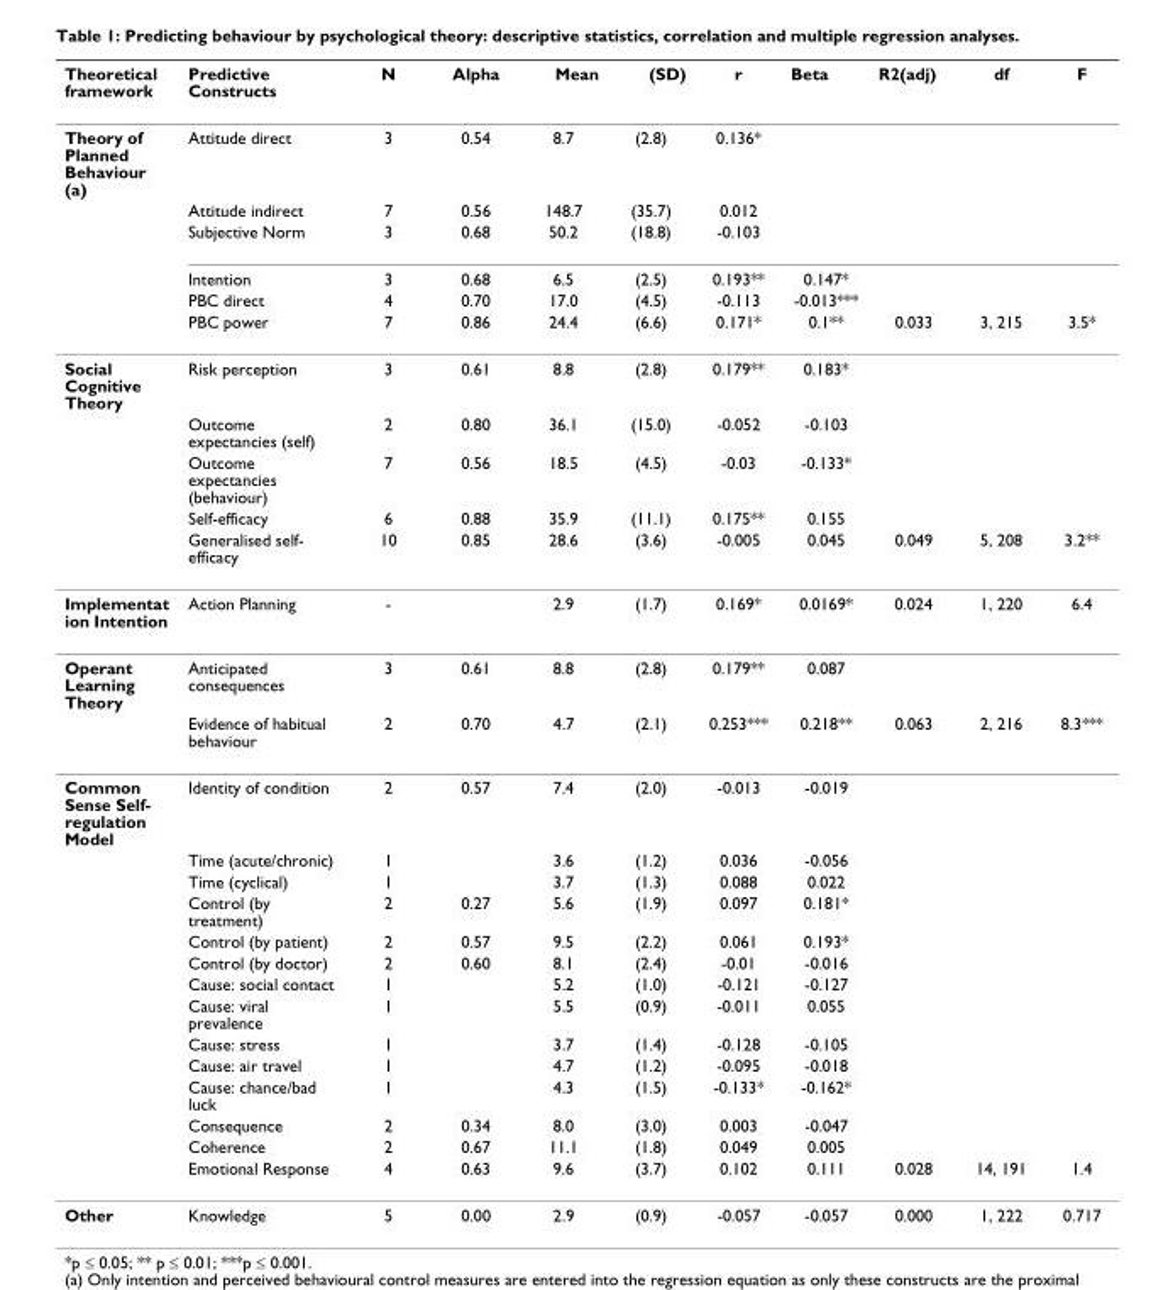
<table><thead><tr><td>Theoretical framework</td><td>Predictive Constructs</td><td>N</td><td>Alpha</td><td>Mean</td><td>(SD)</td><td>r</td><td>Beta</td><td>R2(adj)</td><td>df</td><td>F</td></tr></thead><tbody><tr><td rowspan="6">Theory of Planned Behaviour (a)</td><td>Attitude direct</td><td>3</td><td>0.54</td><td>8.7</td><td>(2.8)</td><td>0.136*</td><td></td><td></td><td></td><td></td></tr><tr><td>Attitude indirect</td><td>7</td><td>0.56</td><td>148.7</td><td>(35.7)</td><td>0.012</td><td></td><td></td><td></td><td></td></tr><tr><td>Subjective Norm</td><td>3</td><td>0.68</td><td>50.2</td><td>(18.8)</td><td>-0.103</td><td></td><td></td><td></td><td></td></tr><tr><td>Intention</td><td>3</td><td>0.68</td><td>6.5</td><td>(2.5)</td><td>0.193**</td><td>0.147*</td><td></td><td></td><td></td></tr><tr><td>PBC direct</td><td>4</td><td>0.70</td><td>17.0</td><td>(4.5)</td><td>-0.113</td><td>-0.013***</td><td></td><td></td><td></td></tr><tr><td>PBC power</td><td>7</td><td>0.86</td><td>24.4</td><td>(6.6)</td><td>0.171*</td><td>0.1**</td><td>0.033</td><td>3, 215</td><td>3.5*</td></tr><tr><td rowspan="5">Social Cognitive Theory</td><td>Risk perception</td><td>3</td><td>0.61</td><td>8.8</td><td>(2.8)</td><td>0.179**</td><td>0.183*</td><td></td><td></td><td></td></tr><tr><td>Outcome expectancies (self)</td><td>2</td><td>0.80</td><td>36.1</td><td>(15.0)</td><td>-0.052</td><td>-0.103</td><td></td><td></td><td></td></tr><tr><td>Outcome expectancies (behaviour)</td><td>7</td><td>0.56</td><td>18.5</td><td>(4.5)</td><td>-0.03</td><td>-0.133*</td><td></td><td></td><td></td></tr><tr><td>Self-efficacy</td><td>6</td><td>0.88</td><td>35.9</td><td>(11.1)</td><td>0.175**</td><td>0.155</td><td></td><td></td><td></td></tr><tr><td>Generalised self- efficacy</td><td>10</td><td>0.85</td><td>28.6</td><td>(3.6)</td><td>-0.005</td><td>0.045</td><td>0.049</td><td>5, 208</td><td>3.2**</td></tr><tr><td>Implementat ion Intention</td><td>Action Planning</td><td>-</td><td></td><td>2.9</td><td>(1.7)</td><td>0.169*</td><td>0.0169*</td><td>0.024</td><td>1, 220</td><td>6.4</td></tr><tr><td rowspan="2">Operant Learning Theory</td><td>Anticipated consequences</td><td>3</td><td>0.61</td><td>8.8</td><td>(2.8)</td><td>0.179**</td><td>0.087</td><td></td><td></td><td></td></tr><tr><td>Evidence of habitual behaviour</td><td>2</td><td>0.70</td><td>4.7</td><td>(2.1)</td><td>0.253***</td><td>0.218**</td><td>0.063</td><td>2, 216</td><td>8.3***</td></tr><tr><td rowspan="14">Common Sense Self- regulation Model</td><td>Identity of condition</td><td>2</td><td>0.57</td><td>7.4</td><td>(2.0)</td><td>-0.013</td><td>-0.019</td><td></td><td></td><td></td></tr><tr><td>Time (acute/chronic)</td><td>1</td><td></td><td>3.6</td><td>(1.2)</td><td>0.036</td><td>-0.056</td><td></td><td></td><td></td></tr><tr><td>Time (cyclical)</td><td>1</td><td></td><td>3.7</td><td>(1.3)</td><td>0.088</td><td>0.022</td><td></td><td></td><td></td></tr><tr><td>Control (by treatment)</td><td>2</td><td>0.27</td><td>5.6</td><td>(1.9)</td><td>0.097</td><td>0.181*</td><td></td><td></td><td></td></tr><tr><td>Control (by patient)</td><td>2</td><td>0.57</td><td>9.5</td><td>(2.2)</td><td>0.061</td><td>0.193*</td><td></td><td></td><td></td></tr><tr><td>Control (by doctor)</td><td>2</td><td>0.60</td><td>8.1</td><td>(2.4)</td><td>-0.01</td><td>-0.016</td><td></td><td></td><td></td></tr><tr><td>Cause: social contact</td><td>1</td><td></td><td>5.2</td><td>(1.0)</td><td>-0.121</td><td>-0.127</td><td></td><td></td><td></td></tr><tr><td>Cause: viral prevalence</td><td>1</td><td></td><td>5.5</td><td>(0.9)</td><td>-0.011</td><td>0.055</td><td></td><td></td><td></td></tr><tr><td>Cause: stress</td><td>1</td><td></td><td>3.7</td><td>(1.4)</td><td>-0.128</td><td>-0.105</td><td></td><td></td><td></td></tr><tr><td>Cause: air travel</td><td>1</td><td></td><td>4.7</td><td>(1.2)</td><td>-0.095</td><td>-0.018</td><td></td><td></td><td></td></tr><tr><td>Cause: chance/bad luck</td><td>1</td><td></td><td>4.3</td><td>(1.5)</td><td>-0.133*</td><td>-0.162*</td><td></td><td></td><td></td></tr><tr><td>Consequence</td><td>2</td><td>0.34</td><td>8.0</td><td>(3.0)</td><td>0.003</td><td>-0.047</td><td></td><td></td><td></td></tr><tr><td>Coherence</td><td>2</td><td>0.67</td><td>11.1</td><td>(1.8)</td><td>0.049</td><td>0.005</td><td></td><td></td><td></td></tr><tr><td>Emotional Response</td><td>4</td><td>0.63</td><td>9.6</td><td>(3.7)</td><td>0.102</td><td>0.111</td><td>0.028</td><td>14, 191</td><td>1.4</td></tr><tr><td>Other</td><td>Knowledge</td><td>5</td><td>0.00</td><td>2.9</td><td>(0.9)</td><td>-0.057</td><td>-0.057</td><td>0.000</td><td>1, 222</td><td>0.717</td></tr></tbody></table>